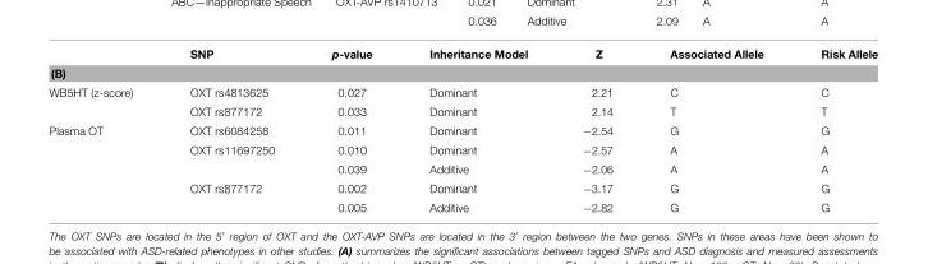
<table><thead><tr><td></td><td>SNP</td><td>p-value</td><td>Inheritance Model</td><td>Z</td><td>Associated Allele</td><td>Risk Allele</td></tr></thead><tbody><tr><td colspan="7">(B)</td></tr><tr><td rowspan="2">WB5HT (z-score)</td><td>OXT rs4813625</td><td>0.027</td><td>Dominant</td><td>2.21</td><td>C</td><td>C</td></tr><tr><td>OXT rs877172</td><td>0.033</td><td>Dominant</td><td>2.14</td><td>T</td><td>T</td></tr><tr><td rowspan="5">Plasma OT</td><td>OXT rs6084258</td><td>0.011</td><td>Dominant</td><td>−2.54</td><td>G</td><td>G</td></tr><tr><td>OXT rs11697250</td><td>0.010</td><td>Dominant</td><td>−2.57</td><td>A</td><td>A</td></tr><tr><td></td><td>0.039</td><td>Additive</td><td>−2.06</td><td>A</td><td>A</td></tr><tr><td>OXT rs877172</td><td>0.002</td><td>Dominant</td><td>−3.17</td><td>G</td><td>G</td></tr><tr><td></td><td>0.005</td><td>Additive</td><td>−2.82</td><td>G</td><td>G</td></tr></tbody></table>